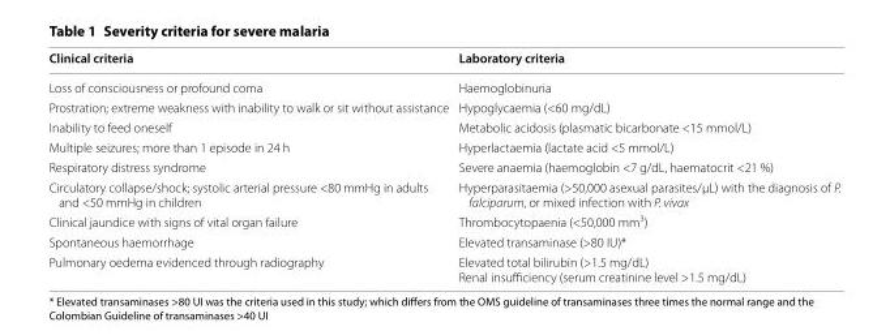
<table><thead><tr><td>Clinical criteria</td><td>Laboratory criteria</td></tr></thead><tbody><tr><td>Loss of consciousness or profound coma</td><td>Haemoglobinuria</td></tr><tr><td>Prostration; extreme weakness with inability to walk or sit without assistance</td><td>Hypoglycaemia (&lt;60 mg/dL)</td></tr><tr><td>Inability to feed oneself</td><td>Metabolic acidosis (plasmatic bicarbonate &lt;15 mmol/L)</td></tr><tr><td>Multiple seizures; more than 1 episode in 24 h</td><td>Hyperlactaemia (lactate acid &lt;5 mmol/L)</td></tr><tr><td>Respiratory distress syndrome</td><td>Severe anaemia (haemoglobin &lt;7 g/dL, haematocrit &lt;21 %)</td></tr><tr><td>Circulatory collapse/shock; systolic arterial pressure &lt;80 mmHg in adults and &lt;50 mmHg in children</td><td>Hyperparasitaemia (&gt;50,000 asexual parasites/μL) with the diagnosis of P. falciparum, or mixed infection with P. vivax</td></tr><tr><td>Clinical jaundice with signs of vital organ failure</td><td>Thrombocytopaenia (&lt;50,000 mm<sup>3</sup>)</td></tr><tr><td>Spontaneous haemorrhage</td><td>Elevated transaminase (&gt;80 IU)*</td></tr><tr><td>Pulmonary oedema evidenced through radiography</td><td>Elevated total bilirubin (&gt;1.5 mg/dL) Renal insufficiency (serum creatinine level &gt;1.5 mg/dL)</td></tr></tbody></table>